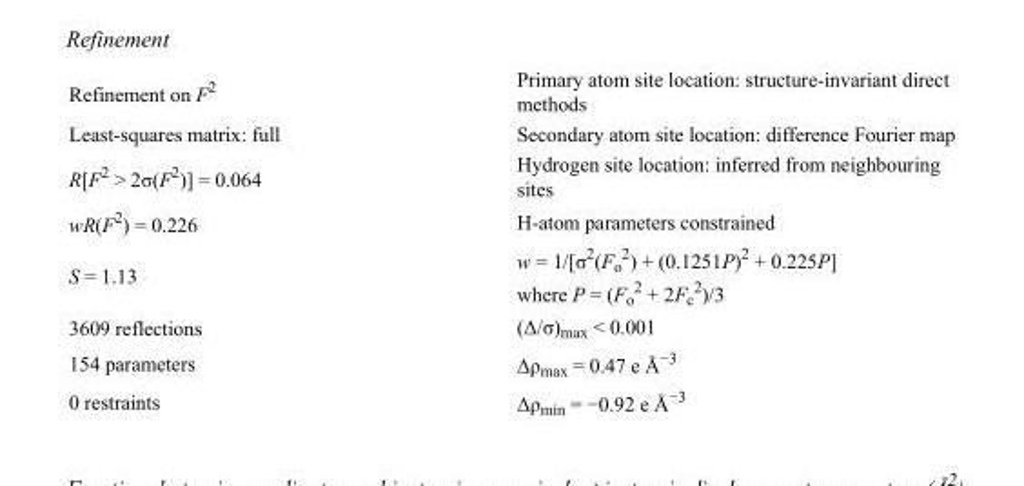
<table><tbody><tr><td>Refinement on F<sup>2</sup></td><td>Primary atom site location: structure-invariant direct methods</td></tr><tr><td>Least-squares matrix: full</td><td>Secondary atom site location: difference Fourier map</td></tr><tr><td>R[F<sup>2</sup> &gt; 2σ(F<sup>2</sup>)] = 0.064</td><td>Hydrogen site location: inferred from neighbouring sites</td></tr><tr><td>wR(F<sup>2</sup>) = 0.226</td><td>H-atom parameters constrained</td></tr><tr><td>S = 1.13</td><td>w = 1/[σ<sup>2</sup>(F<sub>o</sub> <sup>2</sup>) + (0.1251P)<sup>2</sup> + 0.225P] where P = (F<sub>o</sub> <sup>2</sup> + 2F<sub>c</sub> <sup>2</sup>)/3</td></tr><tr><td>3609 reflections</td><td>(Δ/σ)<sub>max</sub> &lt; 0.001</td></tr><tr><td>154 parameters</td><td>Δρ<sub>max</sub> = 0.47 e Å<sup>−3</sup></td></tr><tr><td>0 restraints</td><td>Δρ<sub>min</sub> = −0.92 e Å<sup>−3</sup></td></tr></tbody></table>